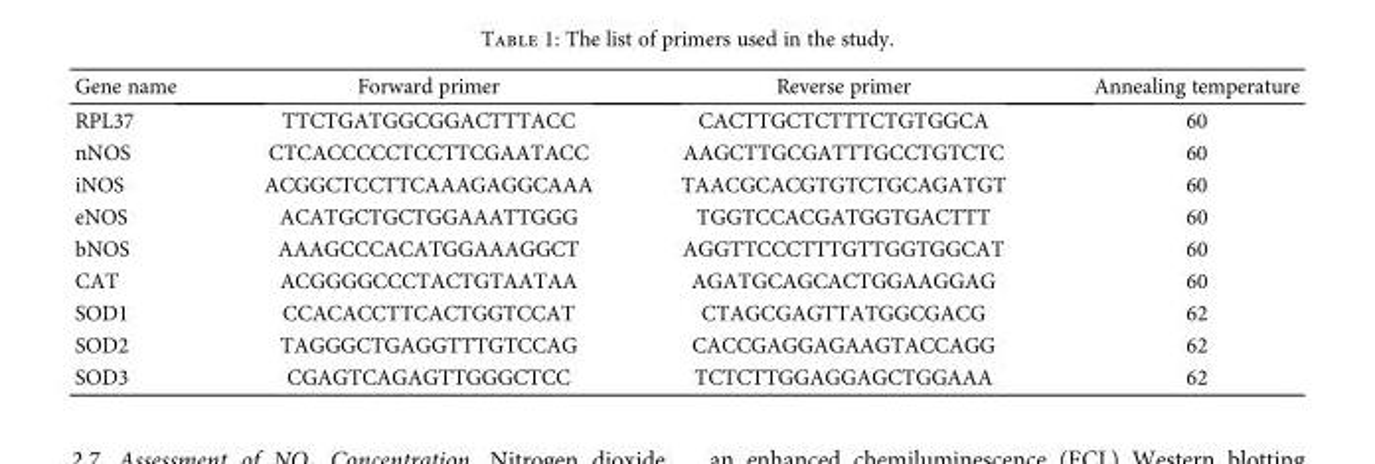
<table><thead><tr><td>Gene name</td><td>Forward primer</td><td>Reverse primer</td><td>Annealing temperature</td></tr></thead><tbody><tr><td>RPL37</td><td>TTCTGATGGCGGACTTTACC</td><td>CACTTGCTCTTTCTGTGGCA</td><td>60</td></tr><tr><td>nNOS</td><td>CTCACCCCCTCCTTCGAATACC</td><td>AAGCTTGCGATTTGCCTGTCTC</td><td>60</td></tr><tr><td>iNOS</td><td>ACGGCTCCTTCAAAGAGGCAAA</td><td>TAACGCACGTGTCTGCAGATGT</td><td>60</td></tr><tr><td>eNOS</td><td>ACATGCTGCTGGAAATTGGG</td><td>TGGTCCACGATGGTGACTTT</td><td>60</td></tr><tr><td>bNOS</td><td>AAAGCCCACATGGAAAGGCT</td><td>AGGTTCCCTTTGTTGGTGGCAT</td><td>60</td></tr><tr><td>CAT</td><td>ACGGGGCCCTACTGTAATAA</td><td>AGATGCAGCACTGGAAGGAG</td><td>60</td></tr><tr><td>SOD1</td><td>CCACACCTTCACTGGTCCAT</td><td>CTAGCGAGTTATGGCGACG</td><td>62</td></tr><tr><td>SOD2</td><td>TAGGGCTGAGGTTTGTCCAG</td><td>CACCGAGGAGAAGTACCAGG</td><td>62</td></tr><tr><td>SOD3</td><td>CGAGTCAGAGTTGGGCTCC</td><td>TCTCTTGGAGGAGCTGGAAA</td><td>62</td></tr></tbody></table>